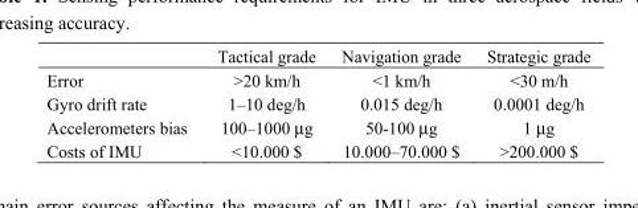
<table><thead><tr><td></td><td>Tactical grade</td><td>Navigation grade</td><td>Strategic grade</td></tr></thead><tbody><tr><td>Error</td><td>&gt;20 km/h</td><td>&lt;1 km/h</td><td>&lt;30 m/h</td></tr><tr><td>Gyro drift rate</td><td>1–10 deg/h</td><td>0.015 deg/h</td><td>0.0001 deg/h</td></tr><tr><td>Accelerometers bias</td><td>100–1000 μg</td><td>50-100 μg</td><td>1 μg</td></tr><tr><td>Costs of IMU</td><td>&lt;10.000 $</td><td>10.000–70.000 $</td><td>&gt;200.000 $</td></tr></tbody></table>